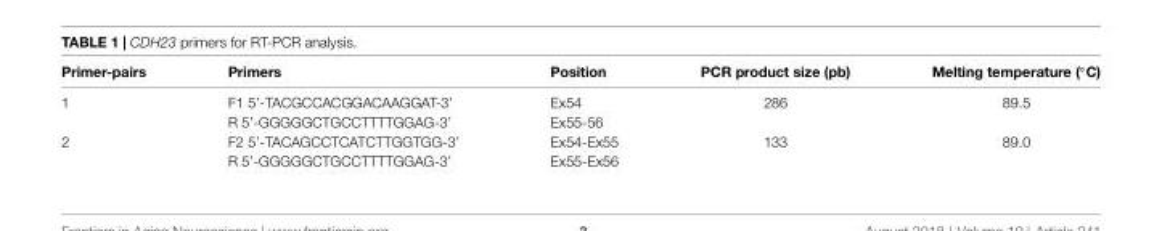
<table><thead><tr><td>Primer-pairs</td><td>Primers</td><td>Position</td><td>PCR product size (pb)</td><td>Melting temperature (◦C)</td></tr></thead><tbody><tr><td rowspan="2">1</td><td>F1 5’-TACGCCACGGACAAGGAT-3’</td><td>Ex54</td><td>286</td><td>89.5</td></tr><tr><td>R 5’-GGGGGCTGCCTTTTGGAG-3’</td><td>Ex55-56</td><td></td><td></td></tr><tr><td rowspan="2">2</td><td>F2 5’-TACAGCCTCATCTTGGTGG-3’</td><td>Ex54-Ex55</td><td>133</td><td>89.0</td></tr><tr><td>R 5’-GGGGGCTGCCTTTTGGAG-3’</td><td>Ex55-Ex56</td><td></td><td></td></tr></tbody></table>